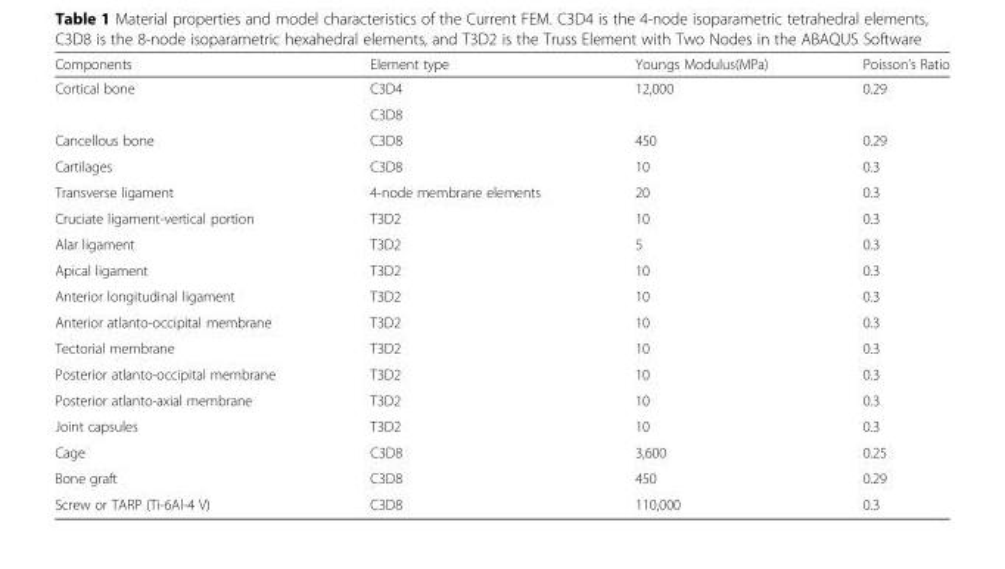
<table><thead><tr><td>Components</td><td>Element type</td><td>Youngs Modulus(MPa)</td><td>Poisson’s Ratio</td></tr></thead><tbody><tr><td rowspan="2">Cortical bone</td><td>C3D4</td><td rowspan="2">12,000</td><td rowspan="2">0.29</td></tr><tr><td>C3D8</td></tr><tr><td>Cancellous bone</td><td>C3D8</td><td>450</td><td>0.29</td></tr><tr><td>Cartilages</td><td>C3D8</td><td>10</td><td>0.3</td></tr><tr><td>Transverse ligament</td><td>4-node membrane elements</td><td>20</td><td>0.3</td></tr><tr><td>Cruciate ligament-vertical portion</td><td>T3D2</td><td>10</td><td>0.3</td></tr><tr><td>Alar ligament</td><td>T3D2</td><td>5</td><td>0.3</td></tr><tr><td>Apical ligament</td><td>T3D2</td><td>10</td><td>0.3</td></tr><tr><td>Anterior longitudinal ligament</td><td>T3D2</td><td>10</td><td>0.3</td></tr><tr><td>Anterior atlanto-occipital membrane</td><td>T3D2</td><td>10</td><td>0.3</td></tr><tr><td>Tectorial membrane</td><td>T3D2</td><td>10</td><td>0.3</td></tr><tr><td>Posterior atlanto-occipital membrane</td><td>T3D2</td><td>10</td><td>0.3</td></tr><tr><td>Posterior atlanto-axial membrane</td><td>T3D2</td><td>10</td><td>0.3</td></tr><tr><td>Joint capsules</td><td>T3D2</td><td>10</td><td>0.3</td></tr><tr><td>Cage</td><td>C3D8</td><td>3,600</td><td>0.25</td></tr><tr><td>Bone graft</td><td>C3D8</td><td>450</td><td>0.29</td></tr><tr><td>Screw or TARP (Ti-6Al-4 V)</td><td>C3D8</td><td>110,000</td><td>0.3</td></tr></tbody></table>